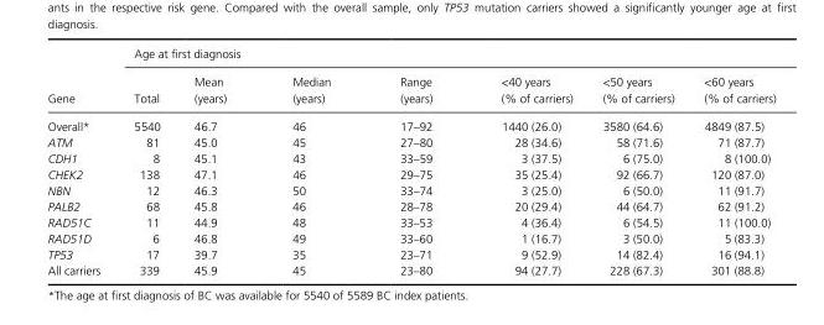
<table><thead><tr><td rowspan="2">Gene</td><td colspan="7">Age at first diagnosis</td></tr><tr><td>Total</td><td>Mean (years)</td><td>Median (years)</td><td>Range (years)</td><td>&lt;40 years (% of carriers)</td><td>&lt;50 years (% of carriers)</td><td>&lt;60 years (% of carriers)</td></tr></thead><tbody><tr><td>Overall*</td><td>5540</td><td>46.7</td><td>46</td><td>17–92</td><td>1440 (26.0)</td><td>3580 (64.6)</td><td>4849 (87.5)</td></tr><tr><td>ATM</td><td>81</td><td>45.0</td><td>45</td><td>27–80</td><td>28 (34.6)</td><td>58 (71.6)</td><td>71 (87.7)</td></tr><tr><td>CDH1</td><td>8</td><td>45.1</td><td>43</td><td>33–59</td><td>3 (37.5)</td><td>6 (75.0)</td><td>8 (100.0)</td></tr><tr><td>CHEK2</td><td>138</td><td>47.1</td><td>46</td><td>29–75</td><td>35 (25.4)</td><td>92 (66.7)</td><td>120 (87.0)</td></tr><tr><td>NBN</td><td>12</td><td>46.3</td><td>50</td><td>33–74</td><td>3 (25.0)</td><td>6 (50.0)</td><td>11 (91.7)</td></tr><tr><td>PALB2</td><td>68</td><td>45.8</td><td>46</td><td>28–78</td><td>20 (29.4)</td><td>44 (64.7)</td><td>62 (91.2)</td></tr><tr><td>RAD51C</td><td>11</td><td>44.9</td><td>48</td><td>33–53</td><td>4 (36.4)</td><td>6 (54.5)</td><td>11 (100.0)</td></tr><tr><td>RAD51D</td><td>6</td><td>46.8</td><td>49</td><td>33–60</td><td>1 (16.7)</td><td>3 (50.0)</td><td>5 (83.3)</td></tr><tr><td>TP53</td><td>17</td><td>39.7</td><td>35</td><td>23–71</td><td>9 (52.9)</td><td>14 (82.4)</td><td>16 (94.1)</td></tr><tr><td>All carriers</td><td>339</td><td>45.9</td><td>45</td><td>23–80</td><td>94 (27.7)</td><td>228 (67.3)</td><td>301 (88.8)</td></tr></tbody></table>